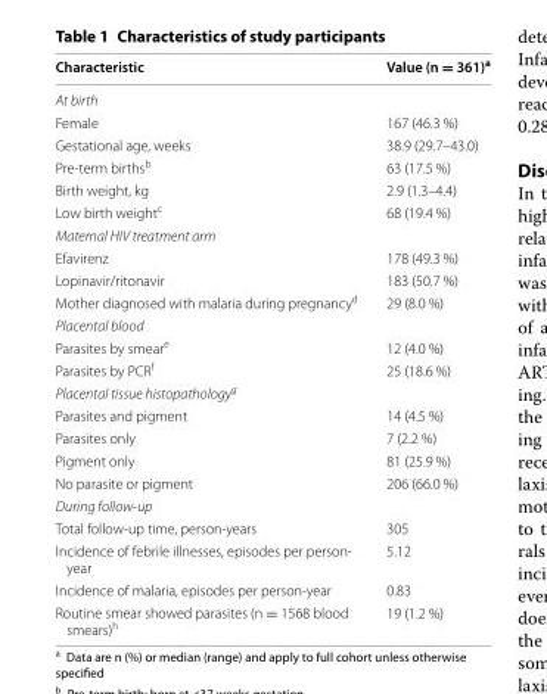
<table><thead><tr><td>Characteristic</td><td>Value (n = 361)<sup>a</sup></td></tr></thead><tbody><tr><td colspan="2">At birth</td></tr><tr><td>Female</td><td>167 (46.3 %)</td></tr><tr><td>Gestational age, weeks</td><td>38.9 (29.7–43.0)</td></tr><tr><td>Pre-term births<sup>b</sup></td><td>63 (17.5 %)</td></tr><tr><td>Birth weight, kg</td><td>2.9 (1.3–4.4)</td></tr><tr><td>Low birth weight<sup>c</sup></td><td>68 (19.4 %)</td></tr><tr><td colspan="2">Maternal HIV treatment arm</td></tr><tr><td>Efavirenz</td><td>178 (49.3 %)</td></tr><tr><td>Lopinavir/ritonavir</td><td>183 (50.7 %)</td></tr><tr><td>Mother diagnosed with malaria during pregnancy<sup>d</sup></td><td>29 (8.0 %)</td></tr><tr><td colspan="2">Placental blood</td></tr><tr><td>Parasites by smear<sup>e</sup></td><td>12 (4.0 %)</td></tr><tr><td>Parasites by PCR<sup>f</sup></td><td>25 (18.6 %)</td></tr><tr><td colspan="2">Placental tissue histopathology<sup>g</sup></td></tr><tr><td>Parasites and pigment</td><td>14 (4.5 %)</td></tr><tr><td>Parasites only</td><td>7 (2.2 %)</td></tr><tr><td>Pigment only</td><td>81 (25.9 %)</td></tr><tr><td>No parasite or pigment</td><td>206 (66.0 %)</td></tr><tr><td colspan="2">During follow-up</td></tr><tr><td>Total follow-up time, person-years</td><td>305</td></tr><tr><td>Incidence of febrile illnesses, episodes per person- year</td><td>5.12</td></tr><tr><td>Incidence of malaria, episodes per person-year</td><td>0.83</td></tr><tr><td>Routine smear showed parasites (n = 1568 blood smears)<sup>h</sup></td><td>19 (1.2 %)</td></tr></tbody></table>